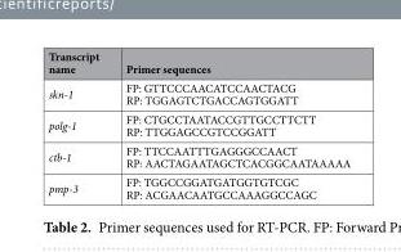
<table><thead><tr><td>Transcript name</td><td>Primer sequences</td></tr></thead><tbody><tr><td>skn-1</td><td>FP: GTTCCCAACATCCAACTACG RP: TGGAGTCTGACCAGTGGATT</td></tr><tr><td>polg-1</td><td>FP: CTGCCTAATACCGTTGCCTTCTT RP: TTGGAGCCGTCCGGATT</td></tr><tr><td>ctb-1</td><td>FP: TTCCAATTTGAGGGCCAACT RP: AACTAGAATAGCTCACGGCAATAAAAA</td></tr><tr><td>pmp-3</td><td>FP: TGGCCGGATGATGGTGTCGC RP: ACGAACAATGCCAAAGGCCAGC</td></tr></tbody></table>